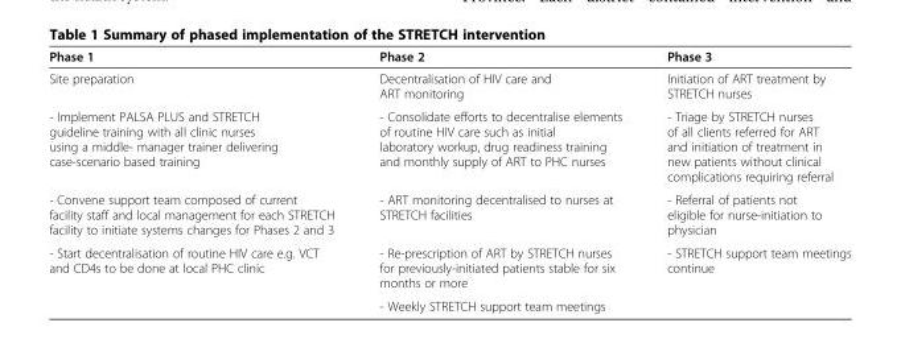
<table><thead><tr><td>Phase 1</td><td>Phase 2</td><td>Phase 3</td></tr></thead><tbody><tr><td>Site preparation</td><td>Decentralisation of HIV care and ART monitoring</td><td>Initiation of ART treatment by STRETCH nurses</td></tr><tr><td>- Implement PALSA PLUS and STRETCH guideline training with all clinic nurses using a middle- manager trainer delivering case-scenario based training</td><td>- Consolidate efforts to decentralise elements of routine HIV care such as initial laboratory workup, drug readiness training and monthly supply of ART to PHC nurses</td><td>- Triage by STRETCH nurses of all clients referred for ART and initiation of treatment in new patients without clinical complications requiring referral</td></tr><tr><td>- Convene support team composed of current facility staff and local management for each STRETCH facility to initiate systems changes for Phases 2 and 3</td><td>- ART monitoring decentralised to nurses at STRETCH facilities</td><td>- Referral of patients not eligible for nurse-initiation to physician</td></tr><tr><td rowspan="2">- Start decentralisation of routine HIV care e.g. VCT and CD4s to be done at local PHC clinic</td><td>- Re-prescription of ART by STRETCH nurses for previously-initiated patients stable for six months or more</td><td rowspan="2">- STRETCH support team meetings continue</td></tr><tr><td>- Weekly STRETCH support team meetings</td></tr></tbody></table>